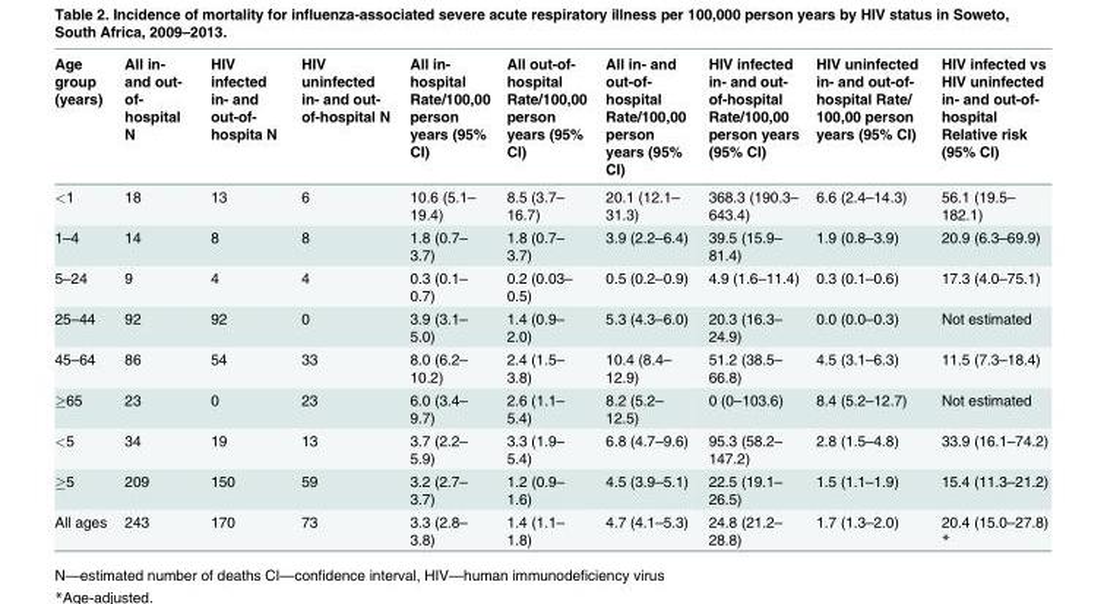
<table><thead><tr><td>Age group (years)</td><td>All in- and out- of- hospital N</td><td>HIV infected in- and out-of- hospita N</td><td>HIV uninfected in- and out- of-hospital N</td><td>All in- hospital Rate/100,00 person years (95% CI)</td><td>All out-of- hospital Rate/100,00 person years (95% CI)</td><td>All in- and out-of- hospital Rate/100,00 person years (95% CI)</td><td>HIV infected in- and out- of-hospital Rate/100,00 person years (95% CI)</td><td>HIV uninfected in- and out-of- hospital Rate/ 100,00 person years (95% CI)</td><td>HIV infected vs HIV uninfected in- and out-of- hospital Relative risk (95% CI)</td></tr></thead><tbody><tr><td>&lt;1</td><td>18</td><td>13</td><td>6</td><td>10.6 (5.1– 19.4)</td><td>8.5 (3.7– 16.7)</td><td>20.1 (12.1– 31.3)</td><td>368.3 (190.3– 643.4)</td><td>6.6 (2.4–14.3)</td><td>56.1 (19.5– 182.1)</td></tr><tr><td>1–4</td><td>14</td><td>8</td><td>8</td><td>1.8 (0.7– 3.7)</td><td>1.8 (0.7– 3.7)</td><td>3.9 (2.2–6.4)</td><td>39.5 (15.9– 81.4)</td><td>1.9 (0.8–3.9)</td><td>20.9 (6.3–69.9)</td></tr><tr><td>5–24</td><td>9</td><td>4</td><td>4</td><td>0.3 (0.1– 0.7)</td><td>0.2 (0.03– 0.5)</td><td>0.5 (0.2–0.9)</td><td>4.9 (1.6–11.4)</td><td>0.3 (0.1–0.6)</td><td>17.3 (4.0–75.1)</td></tr><tr><td>25–44</td><td>92</td><td>92</td><td>0</td><td>3.9 (3.1– 5.0)</td><td>1.4 (0.9– 2.0)</td><td>5.3 (4.3–6.0)</td><td>20.3 (16.3– 24.9)</td><td>0.0 (0.0–0.3)</td><td>Not estimated</td></tr><tr><td>45–64</td><td>86</td><td>54</td><td>33</td><td>8.0 (6.2– 10.2)</td><td>2.4 (1.5– 3.8)</td><td>10.4 (8.4– 12.9)</td><td>51.2 (38.5– 66.8)</td><td>4.5 (3.1–6.3)</td><td>11.5 (7.3–18.4)</td></tr><tr><td>≥65</td><td>23</td><td>0</td><td>23</td><td>6.0 (3.4– 9.7)</td><td>2.6 (1.1– 5.4)</td><td>8.2 (5.2– 12.5)</td><td>0 (0–103.6)</td><td>8.4 (5.2–12.7)</td><td>Not estimated</td></tr><tr><td>&lt;5</td><td>34</td><td>19</td><td>13</td><td>3.7 (2.2– 5.9)</td><td>3.3 (1.9– 5.4)</td><td>6.8 (4.7–9.6)</td><td>95.3 (58.2– 147.2)</td><td>2.8 (1.5–4.8)</td><td>33.9 (16.1–74.2)</td></tr><tr><td>≥5</td><td>209</td><td>150</td><td>59</td><td>3.2 (2.7– 3.7)</td><td>1.2 (0.9– 1.6)</td><td>4.5 (3.9–5.1)</td><td>22.5 (19.1– 26.5)</td><td>1.5 (1.1–1.9)</td><td>15.4 (11.3–21.2)</td></tr><tr><td>All ages</td><td>243</td><td>170</td><td>73</td><td>3.3 (2.8– 3.8)</td><td>1.4 (1.1– 1.8)</td><td>4.7 (4.1–5.3)</td><td>24.8 (21.2– 28.8)</td><td>1.7 (1.3–2.0)</td><td>20.4 (15.0–27.8) *</td></tr></tbody></table>